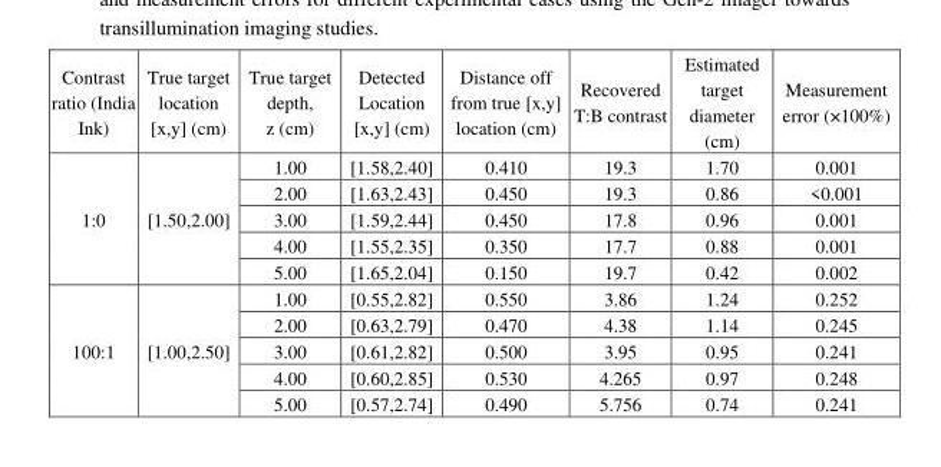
<table><thead><tr><td>Contrast ratio (India Ink)</td><td>True target location [x,y] (cm)</td><td>True target depth, z (cm)</td><td>Detected Location [x,y] (cm)</td><td>Distance off from true [x,y] location (cm)</td><td>Recovered T:B contrast</td><td>Estimated target diameter (cm)</td><td>Measurement error (×100%)</td></tr></thead><tbody><tr><td rowspan="5">1:0</td><td rowspan="5">[1.50,2.00]</td><td>1.00</td><td>[1.58,2.40]</td><td>0.410</td><td>19.3</td><td>1.70</td><td>0.001</td></tr><tr><td>2.00</td><td>[1.63,2.43]</td><td>0.450</td><td>19.3</td><td>0.86</td><td>&lt;0.001</td></tr><tr><td>3.00</td><td>[1.59,2.44]</td><td>0.450</td><td>17.8</td><td>0.96</td><td>0.001</td></tr><tr><td>4.00</td><td>[1.55,2.35]</td><td>0.350</td><td>17.7</td><td>0.88</td><td>0.001</td></tr><tr><td>5.00</td><td>[1.65,2.04]</td><td>0.150</td><td>19.7</td><td>0.42</td><td>0.002</td></tr><tr><td rowspan="5">100:1</td><td rowspan="5">[1.00,2.50]</td><td>1.00</td><td>[0.55,2.82]</td><td>0.550</td><td>3.86</td><td>1.24</td><td>0.252</td></tr><tr><td>2.00</td><td>[0.63,2.79]</td><td>0.470</td><td>4.38</td><td>1.14</td><td>0.245</td></tr><tr><td>3.00</td><td>[0.61,2.82]</td><td>0.500</td><td>3.95</td><td>0.95</td><td>0.241</td></tr><tr><td>4.00</td><td>[0.60,2.85]</td><td>0.530</td><td>4.265</td><td>0.97</td><td>0.248</td></tr><tr><td>5.00</td><td>[0.57,2.74]</td><td>0.490</td><td>5.756</td><td>0.74</td><td>0.241</td></tr></tbody></table>